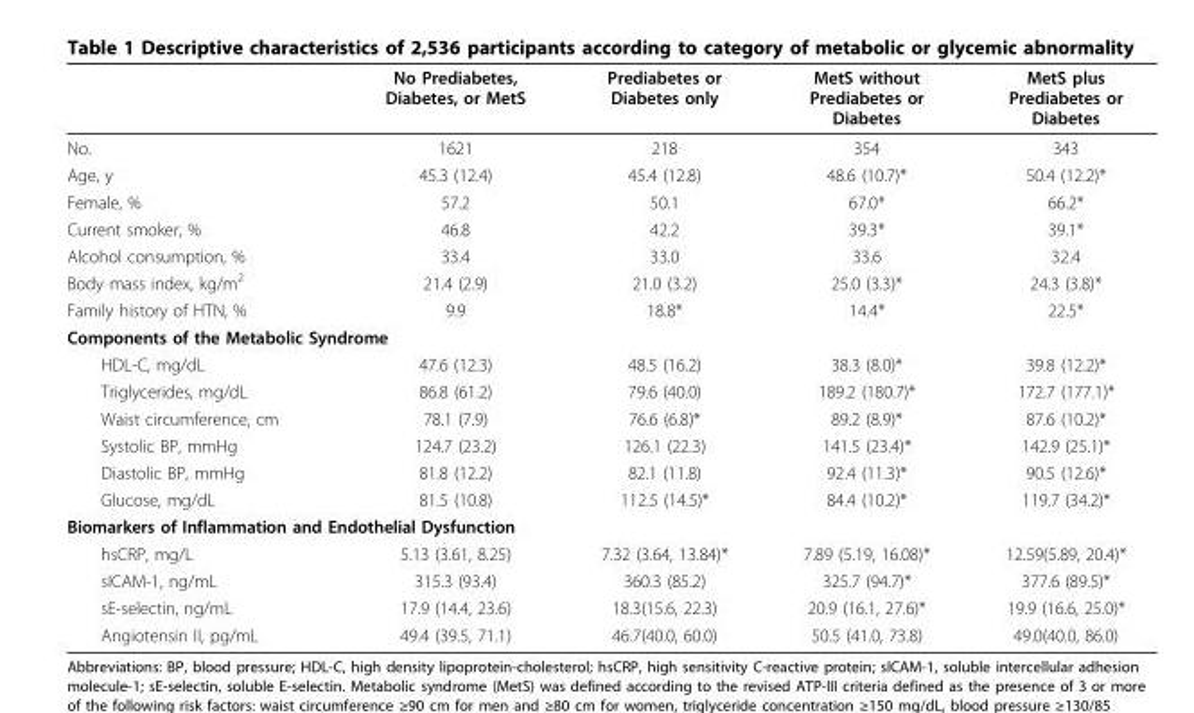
<table><thead><tr><td></td><td>No Prediabetes, Diabetes, or MetS</td><td>Prediabetes or Diabetes only</td><td>MetS without Prediabetes or Diabetes</td><td>MetS plus Prediabetes or Diabetes</td></tr></thead><tbody><tr><td>No.</td><td>1621</td><td>218</td><td>354</td><td>343</td></tr><tr><td>Age, y</td><td>45.3 (12.4)</td><td>45.4 (12.8)</td><td>48.6 (10.7)*</td><td>50.4 (12.2)*</td></tr><tr><td>Female, %</td><td>57.2</td><td>50.1</td><td>67.0*</td><td>66.2*</td></tr><tr><td>Current smoker, %</td><td>46.8</td><td>42.2</td><td>39.3*</td><td>39.1*</td></tr><tr><td>Alcohol consumption, %</td><td>33.4</td><td>33.0</td><td>33.6</td><td>32.4</td></tr><tr><td>Body mass index, kg/m<sup>2</sup></td><td>21.4 (2.9)</td><td>21.0 (3.2)</td><td>25.0 (3.3)*</td><td>24.3 (3.8)*</td></tr><tr><td>Family history of HTN, %</td><td>9.9</td><td>18.8*</td><td>14.4*</td><td>22.5*</td></tr><tr><td colspan="5">Components of the Metabolic Syndrome</td></tr><tr><td>HDL-C, mg/dL</td><td>47.6 (12.3)</td><td>48.5 (16.2)</td><td>38.3 (8.0)*</td><td>39.8 (12.2)*</td></tr><tr><td>Triglycerides, mg/dL</td><td>86.8 (61.2)</td><td>79.6 (40.0)</td><td>189.2 (180.7)*</td><td>172.7 (177.1)*</td></tr><tr><td>Waist circumference, cm</td><td>78.1 (7.9)</td><td>76.6 (6.8)*</td><td>89.2 (8.9)*</td><td>87.6 (10.2)*</td></tr><tr><td>Systolic BP, mmHg</td><td>124.7 (23.2)</td><td>126.1 (22.3)</td><td>141.5 (23.4)*</td><td>142.9 (25.1)*</td></tr><tr><td>Diastolic BP, mmHg</td><td>81.8 (12.2)</td><td>82.1 (11.8)</td><td>92.4 (11.3)*</td><td>90.5 (12.6)*</td></tr><tr><td>Glucose, mg/dL</td><td>81.5 (10.8)</td><td>112.5 (14.5)*</td><td>84.4 (10.2)*</td><td>119.7 (34.2)*</td></tr><tr><td colspan="5">Biomarkers of Inflammation and Endothelial Dysfunction</td></tr><tr><td>hsCRP, mg/L</td><td>5.13 (3.61, 8.25)</td><td>7.32 (3.64, 13.84)*</td><td>7.89 (5.19, 16.08)*</td><td>12.59(5.89, 20.4)*</td></tr><tr><td>sICAM-1, ng/mL</td><td>315.3 (93.4)</td><td>360.3 (85.2)</td><td>325.7 (94.7)*</td><td>377.6 (89.5)*</td></tr><tr><td>sE-selectin, ng/mL</td><td>17.9 (14.4, 23.6)</td><td>18.3(15.6, 22.3)</td><td>20.9 (16.1, 27.6)*</td><td>19.9 (16.6, 25.0)*</td></tr><tr><td>Angiotensin II, pg/mL</td><td>49.4 (39.5, 71.1)</td><td>46.7(40.0, 60.0)</td><td>50.5 (41.0, 73.8)</td><td>49.0(40.0, 86.0)</td></tr></tbody></table>